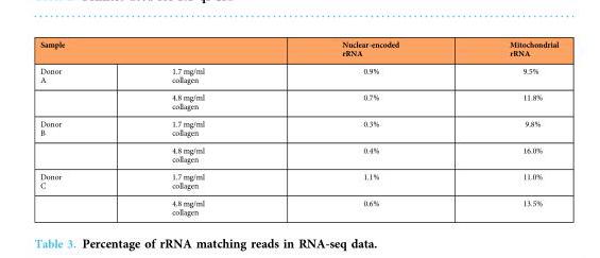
<table><thead><tr><td colspan="2">Sample</td><td rowspan="2">Nuclear-encoded rRNA 0.9%</td><td rowspan="2">Mitochondrial rRNA 9.5%</td></tr><tr><td>Donor A</td><td>1.7 mg/ml collagen</td></tr></thead><tbody><tr><td></td><td>4.8 mg/ml collagen</td><td>0.7%</td><td>11.8%</td></tr><tr><td rowspan="2">Donor B</td><td>1.7 mg/ml collagen</td><td>0.3%</td><td>9.8%</td></tr><tr><td>4.8 mg/ml collagen</td><td>0.4%</td><td>16.0%</td></tr><tr><td rowspan="2">Donor C</td><td>1.7 mg/ml collagen</td><td>1.1%</td><td>11.0%</td></tr><tr><td>4.8 mg/ml collagen</td><td>0.6%</td><td>13.5%</td></tr></tbody></table>